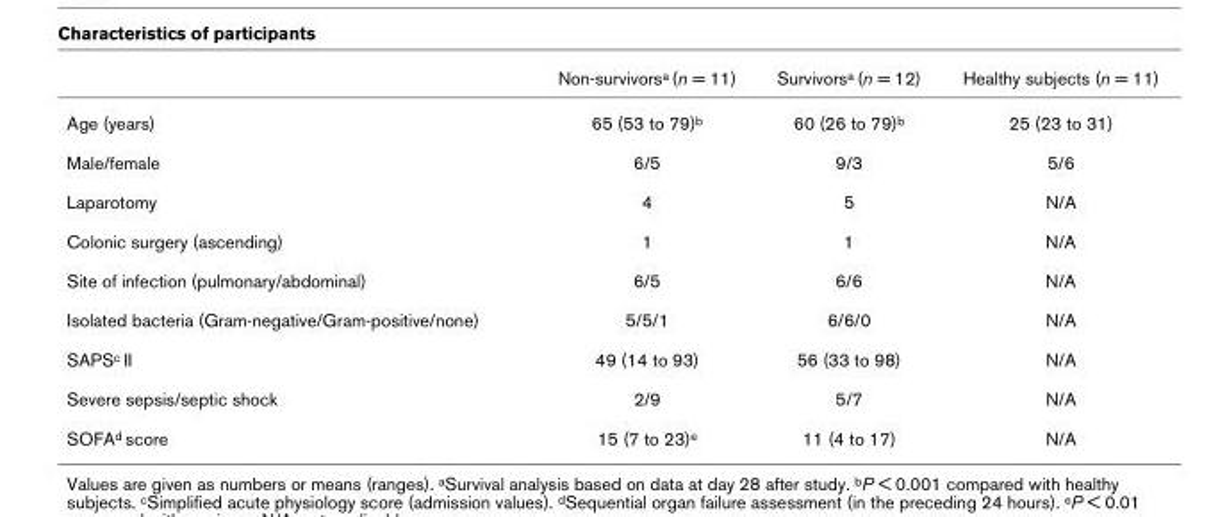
<table><thead><tr><td></td><td>Non-survivorsa (n = 11)</td><td>Survivorsa (n = 12)</td><td>Healthy subjects (n = 11)</td></tr></thead><tbody><tr><td>Age (years)</td><td>65 (53 to 79)b</td><td>60 (26 to 79)b</td><td>25 (23 to 31)</td></tr><tr><td>Male/female</td><td>6/5</td><td>9/3</td><td>5/6</td></tr><tr><td>Laparotomy</td><td>4</td><td>5</td><td>N/A</td></tr><tr><td>Colonic surgery (ascending)</td><td>1</td><td>1</td><td>N/A</td></tr><tr><td>Site of infection (pulmonary/abdominal)</td><td>6/5</td><td>6/6</td><td>N/A</td></tr><tr><td>Isolated bacteria (Gram-negative/Gram-positive/none)</td><td>5/5/1</td><td>6/6/0</td><td>N/A</td></tr><tr><td>SAPSc II</td><td>49 (14 to 93)</td><td>56 (33 to 98)</td><td>N/A</td></tr><tr><td>Severe sepsis/septic shock</td><td>2/9</td><td>5/7</td><td>N/A</td></tr><tr><td>SOFAd score</td><td>15 (7 to 23)e</td><td>11 (4 to 17)</td><td>N/A</td></tr></tbody></table>